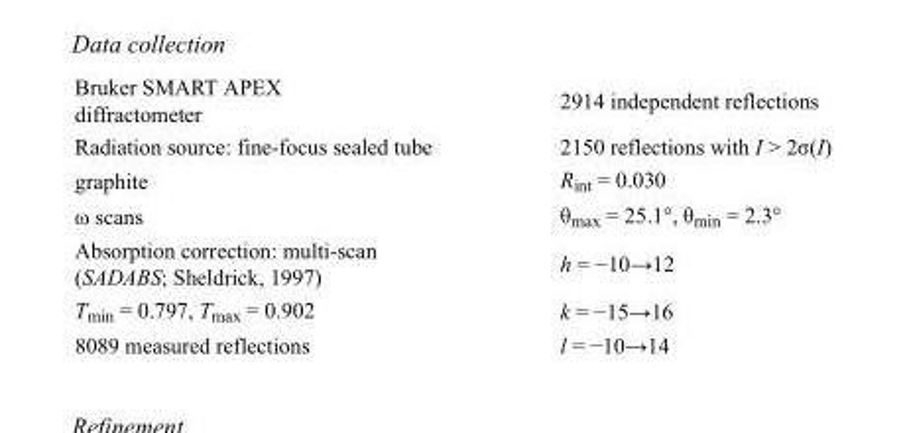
<table><tbody><tr><td>Bruker SMART APEX diffractometer</td><td>2914 independent reflections</td></tr><tr><td>Radiation source: fine-focus sealed tube</td><td>2150 reflections with I &gt; 2σ(I)</td></tr><tr><td>graphite</td><td>R<sub>int</sub> = 0.030</td></tr><tr><td>ω scans</td><td>θ<sub>max</sub> = 25.1°, θ<sub>min</sub> = 2.3°</td></tr><tr><td>Absorption correction: multi-scan (SADABS; Sheldrick, 1997)</td><td>h = −10→12</td></tr><tr><td>T<sub>min</sub> = 0.797, T<sub>max</sub> = 0.902</td><td>k = −15→16</td></tr><tr><td>8089 measured reflections</td><td>l = −10→14</td></tr></tbody></table>